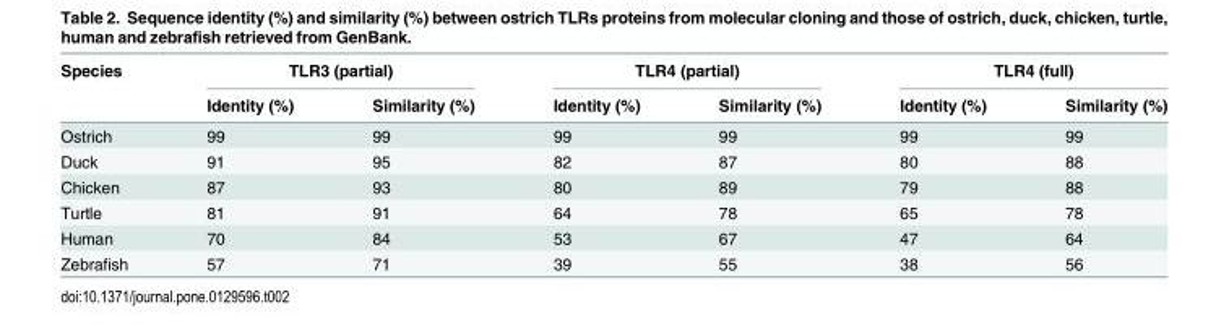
<table><thead><tr><td rowspan="2">Species</td><td colspan="2">TLR3 (partial)</td><td colspan="2">TLR4 (partial)</td><td colspan="2">TLR4 (full)</td></tr><tr><td>Identity (%)</td><td>Similarity (%)</td><td>Identity (%)</td><td>Similarity (%)</td><td>Identity (%)</td><td>Similarity (%)</td></tr></thead><tbody><tr><td>Ostrich</td><td>99</td><td>99</td><td>99</td><td>99</td><td>99</td><td>99</td></tr><tr><td>Duck</td><td>91</td><td>95</td><td>82</td><td>87</td><td>80</td><td>88</td></tr><tr><td>Chicken</td><td>87</td><td>93</td><td>80</td><td>89</td><td>79</td><td>88</td></tr><tr><td>Turtle</td><td>81</td><td>91</td><td>64</td><td>78</td><td>65</td><td>78</td></tr><tr><td>Human</td><td>70</td><td>84</td><td>53</td><td>67</td><td>47</td><td>64</td></tr><tr><td>Zebrafish</td><td>57</td><td>71</td><td>39</td><td>55</td><td>38</td><td>56</td></tr></tbody></table>